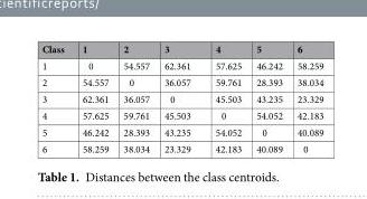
<table><thead><tr><td>Class</td><td>1</td><td>2</td><td>3</td><td>4</td><td>5</td><td>6</td></tr></thead><tbody><tr><td>1</td><td>0</td><td>54.557</td><td>62.361</td><td>57.625</td><td>46.242</td><td>58.259</td></tr><tr><td>2</td><td>54.557</td><td>0</td><td>36.057</td><td>59.761</td><td>28.393</td><td>38.034</td></tr><tr><td>3</td><td>62.361</td><td>36.057</td><td>0</td><td>45.503</td><td>43.235</td><td>23.329</td></tr><tr><td>4</td><td>57.625</td><td>59.761</td><td>45.503</td><td>0</td><td>54.052</td><td>42.183</td></tr><tr><td>5</td><td>46.242</td><td>28.393</td><td>43.235</td><td>54.052</td><td>0</td><td>40.089</td></tr><tr><td>6</td><td>58.259</td><td>38.034</td><td>23.329</td><td>42.183</td><td>40.089</td><td>0</td></tr></tbody></table>